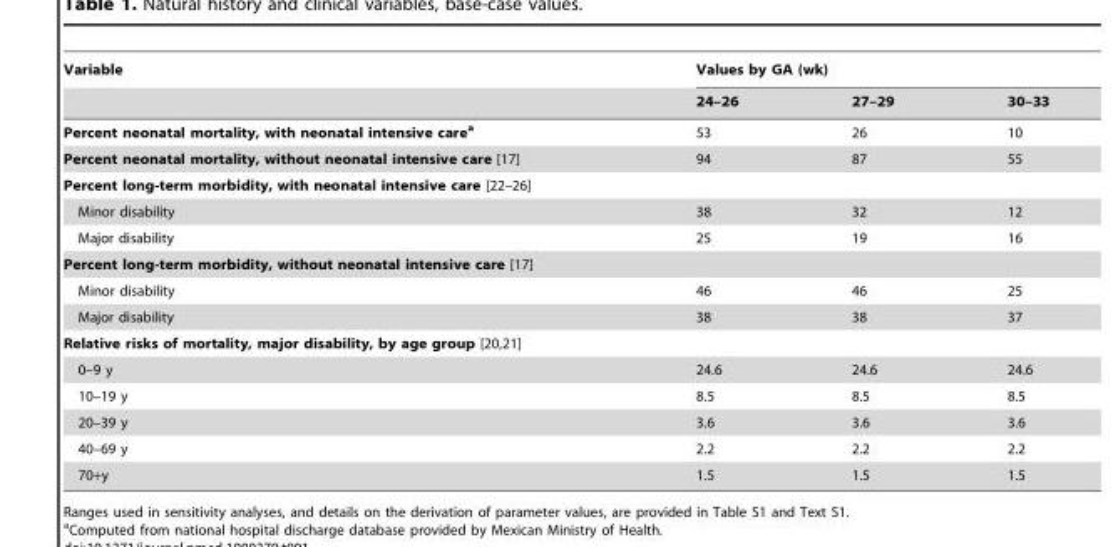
<table><thead><tr><td rowspan="2">Variable</td><td colspan="3">Values by GA (wk)</td></tr><tr><td>24–26</td><td>27–29</td><td>30–33</td></tr></thead><tbody><tr><td>Percent neonatal mortality, with neonatal intensive carea</td><td>53</td><td>26</td><td>10</td></tr><tr><td>Percent neonatal mortality, without neonatal intensive care [17]</td><td>94</td><td>87</td><td>55</td></tr><tr><td colspan="4">Percent long-term morbidity, with neonatal intensive care [22–26]</td></tr><tr><td>Minor disability</td><td>38</td><td>32</td><td>12</td></tr><tr><td>Major disability</td><td>25</td><td>19</td><td>16</td></tr><tr><td colspan="4">Percent long-term morbidity, without neonatal intensive care [17]</td></tr><tr><td>Minor disability</td><td>46</td><td>46</td><td>25</td></tr><tr><td>Major disability</td><td>38</td><td>38</td><td>37</td></tr><tr><td colspan="4">Relative risks of mortality, major disability, by age group [20,21]</td></tr><tr><td>0–9 y</td><td>24.6</td><td>24.6</td><td>24.6</td></tr><tr><td>10–19 y</td><td>8.5</td><td>8.5</td><td>8.5</td></tr><tr><td>20–39 y</td><td>3.6</td><td>3.6</td><td>3.6</td></tr><tr><td>40–69 y</td><td>2.2</td><td>2.2</td><td>2.2</td></tr><tr><td>70+y</td><td>1.5</td><td>1.5</td><td>1.5</td></tr></tbody></table>